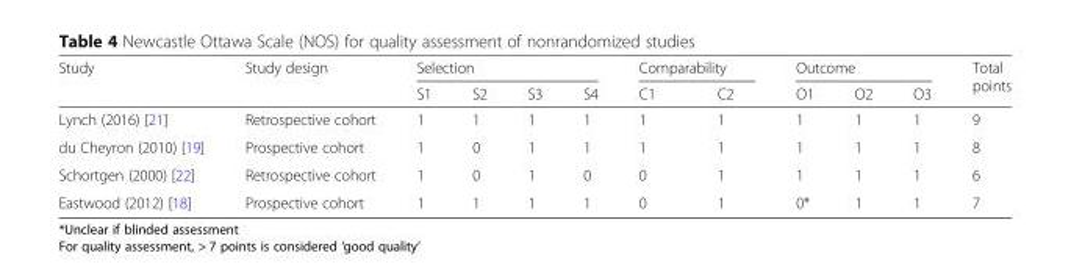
<table><thead><tr><td rowspan="2">Study</td><td rowspan="2">Study design</td><td colspan="4">Selection</td><td colspan="2">Comparability</td><td colspan="3">Outcome</td><td rowspan="2">Total points</td></tr><tr><td>S1</td><td>S2</td><td>S3</td><td>S4</td><td>C1</td><td>C2</td><td>O1</td><td>O2</td><td>O3</td></tr></thead><tbody><tr><td>Lynch (2016) [21]</td><td>Retrospective cohort</td><td>1</td><td>1</td><td>1</td><td>1</td><td>1</td><td>1</td><td>1</td><td>1</td><td>1</td><td>9</td></tr><tr><td>du Cheyron (2010) [19]</td><td>Prospective cohort</td><td>1</td><td>0</td><td>1</td><td>1</td><td>1</td><td>1</td><td>1</td><td>1</td><td>1</td><td>8</td></tr><tr><td>Schortgen (2000) [22]</td><td>Retrospective cohort</td><td>1</td><td>0</td><td>1</td><td>0</td><td>0</td><td>1</td><td>1</td><td>1</td><td>1</td><td>6</td></tr><tr><td>Eastwood (2012) [18]</td><td>Prospective cohort</td><td>1</td><td>1</td><td>1</td><td>1</td><td>0</td><td>1</td><td>0*</td><td>1</td><td>1</td><td>7</td></tr></tbody></table>